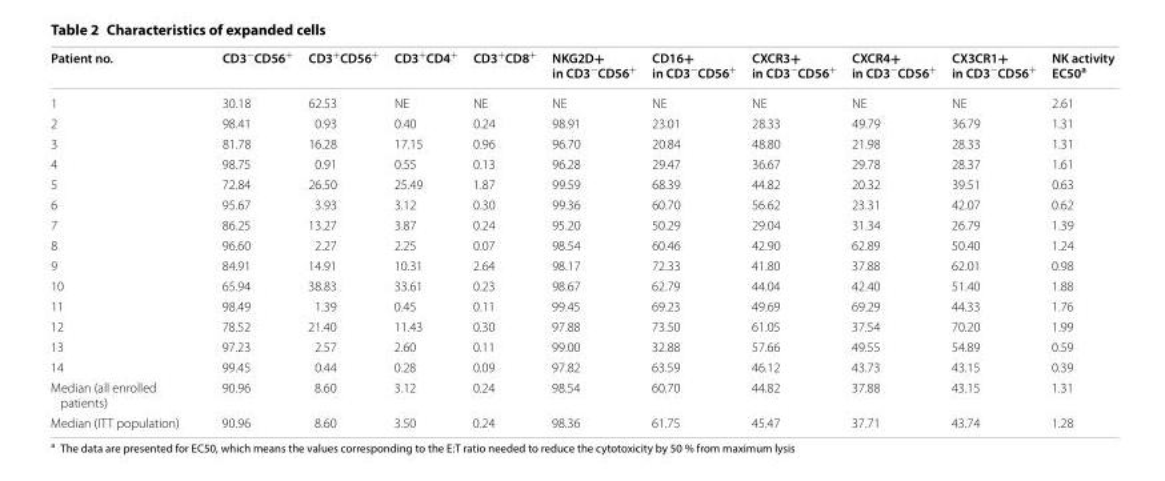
<table><thead><tr><td>Patient no.</td><td>CD3<sup>−</sup>CD56<sup>+</sup></td><td>CD3<sup>+</sup>CD56<sup>+</sup></td><td>CD3<sup>+</sup>CD4<sup>+</sup></td><td>CD3<sup>+</sup>CD8<sup>+</sup></td><td>NKG2D+ in CD3<sup>−</sup>CD56<sup>+</sup></td><td>CD16+ in CD3<sup>−</sup>CD56<sup>+</sup></td><td>CXCR3+ in CD3<sup>−</sup>CD56<sup>+</sup></td><td>CXCR4+ in CD3<sup>−</sup>CD56<sup>+</sup></td><td>CX3CR1+ in CD3<sup>−</sup>CD56<sup>+</sup></td><td>NK activity EC50<sup>a</sup></td></tr></thead><tbody><tr><td>1</td><td>30.18</td><td>62.53</td><td>NE</td><td>NE</td><td>NE</td><td>NE</td><td>NE</td><td>NE</td><td>NE</td><td>2.61</td></tr><tr><td>2</td><td>98.41</td><td>0.93</td><td>0.40</td><td>0.24</td><td>98.91</td><td>23.01</td><td>28.33</td><td>49.79</td><td>36.79</td><td>1.31</td></tr><tr><td>3</td><td>81.78</td><td>16.28</td><td>17.15</td><td>0.96</td><td>96.70</td><td>20.84</td><td>48.80</td><td>21.98</td><td>28.33</td><td>1.31</td></tr><tr><td>4</td><td>98.75</td><td>0.91</td><td>0.55</td><td>0.13</td><td>96.28</td><td>29.47</td><td>36.67</td><td>29.78</td><td>28.37</td><td>1.61</td></tr><tr><td>5</td><td>72.84</td><td>26.50</td><td>25.49</td><td>1.87</td><td>99.59</td><td>68.39</td><td>44.82</td><td>20.32</td><td>39.51</td><td>0.63</td></tr><tr><td>6</td><td>95.67</td><td>3.93</td><td>3.12</td><td>0.30</td><td>99.36</td><td>60.70</td><td>56.62</td><td>23.31</td><td>42.07</td><td>0.62</td></tr><tr><td>7</td><td>86.25</td><td>13.27</td><td>3.87</td><td>0.24</td><td>95.20</td><td>50.29</td><td>29.04</td><td>31.34</td><td>26.79</td><td>1.39</td></tr><tr><td>8</td><td>96.60</td><td>2.27</td><td>2.25</td><td>0.07</td><td>98.54</td><td>60.46</td><td>42.90</td><td>62.89</td><td>50.40</td><td>1.24</td></tr><tr><td>9</td><td>84.91</td><td>14.91</td><td>10.31</td><td>2.64</td><td>98.17</td><td>72.33</td><td>41.80</td><td>37.88</td><td>62.01</td><td>0.98</td></tr><tr><td>10</td><td>65.94</td><td>38.83</td><td>33.61</td><td>0.23</td><td>98.67</td><td>62.79</td><td>44.04</td><td>42.40</td><td>51.40</td><td>1.88</td></tr><tr><td>11</td><td>98.49</td><td>1.39</td><td>0.45</td><td>0.11</td><td>99.45</td><td>69.23</td><td>49.69</td><td>69.29</td><td>44.33</td><td>1.76</td></tr><tr><td>12</td><td>78.52</td><td>21.40</td><td>11.43</td><td>0.30</td><td>97.88</td><td>73.50</td><td>61.05</td><td>37.54</td><td>70.20</td><td>1.99</td></tr><tr><td>13</td><td>97.23</td><td>2.57</td><td>2.60</td><td>0.11</td><td>99.00</td><td>32.88</td><td>57.66</td><td>49.55</td><td>54.89</td><td>0.59</td></tr><tr><td>14</td><td>99.45</td><td>0.44</td><td>0.28</td><td>0.09</td><td>97.82</td><td>63.59</td><td>46.12</td><td>43.73</td><td>43.15</td><td>0.39</td></tr><tr><td>Median (all enrolled patients)</td><td>90.96</td><td>8.60</td><td>3.12</td><td>0.24</td><td>98.54</td><td>60.70</td><td>44.82</td><td>37.88</td><td>43.15</td><td>1.31</td></tr><tr><td>Median (ITT population)</td><td>90.96</td><td>8.60</td><td>3.50</td><td>0.24</td><td>98.36</td><td>61.75</td><td>45.47</td><td>37.71</td><td>43.74</td><td>1.28</td></tr></tbody></table>